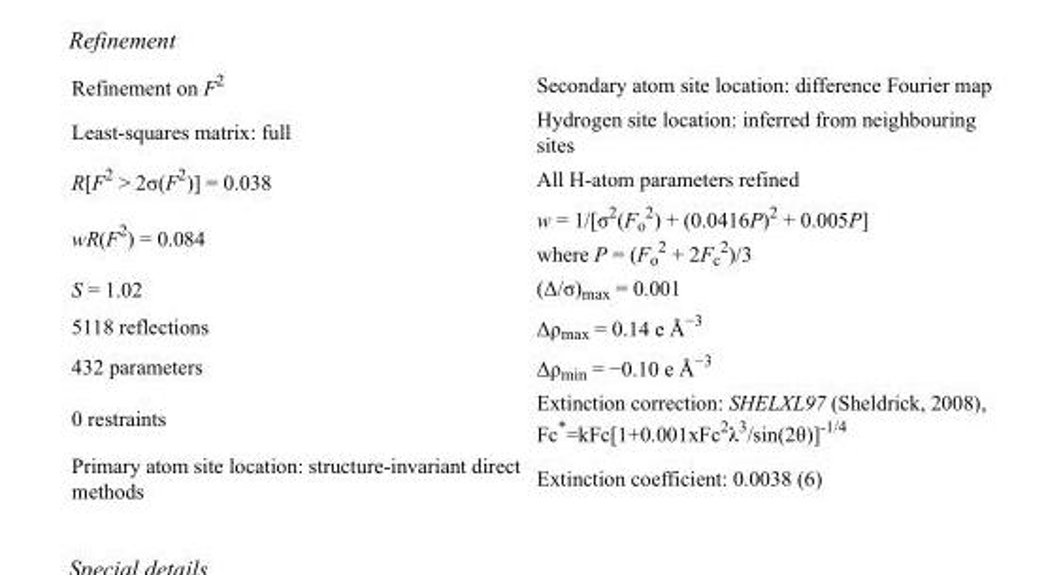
<table><tbody><tr><td>Refinement on F<sup>2</sup></td><td>Secondary atom site location: difference Fourier map</td></tr><tr><td>Least-squares matrix: full</td><td>Hydrogen site location: inferred from neighbouring sites</td></tr><tr><td>R[F<sup>2</sup> &gt; 2σ(F<sup>2</sup>)] = 0.038</td><td>All H-atom parameters refined</td></tr><tr><td>wR(F<sup>2</sup>) = 0.084</td><td>w = 1/[σ<sup>2</sup>(F<sub>o</sub> <sup>2</sup>) + (0.0416P)<sup>2</sup> + 0.005P] where P = (F<sub>o</sub> <sup>2</sup> + 2F<sub>c</sub> <sup>2</sup>)/3</td></tr><tr><td>S = 1.02</td><td>(Δ/σ)<sub>max</sub> = 0.001</td></tr><tr><td>5118 reflections</td><td>Δρ<sub>max</sub> = 0.14 e Å<sup>−3</sup></td></tr><tr><td>432 parameters</td><td>Δρ<sub>min</sub> = −0.10 e Å<sup>−3</sup></td></tr><tr><td>0 restraints</td><td>Extinction correction: SHELXL97 (Sheldrick, 2008), Fc*=kFc[1+0.001xFc<sup>2</sup>λ<sup>3</sup>/sin(2θ)]<sup>-1/4</sup></td></tr><tr><td>Primary atom site location: structure-invariant direct methods</td><td>Extinction coefficient: 0.0038 (6)</td></tr></tbody></table>